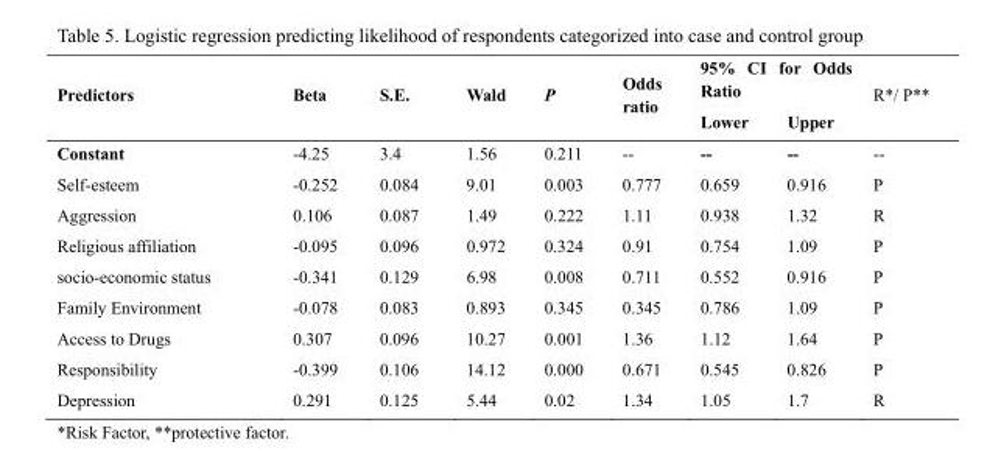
<table><thead><tr><td rowspan="2">Predictors</td><td rowspan="2">Beta</td><td rowspan="2">S.E.</td><td rowspan="2">Wald</td><td rowspan="2">P</td><td rowspan="2">Odds ratio</td><td colspan="2">95% CI for Odds Ratio</td><td rowspan="2">R*/ P**</td></tr><tr><td>Lower</td><td>Upper</td></tr></thead><tbody><tr><td>Constant</td><td>-4.25</td><td>3.4</td><td>1.56</td><td>0.211</td><td>--</td><td>--</td><td>--</td><td>--</td></tr><tr><td>Self-esteem</td><td>-0.252</td><td>0.084</td><td>9.01</td><td>0.003</td><td>0.777</td><td>0.659</td><td>0.916</td><td>P</td></tr><tr><td>Aggression</td><td>0.106</td><td>0.087</td><td>1.49</td><td>0.222</td><td>1.11</td><td>0.938</td><td>1.32</td><td>R</td></tr><tr><td>Religious affiliation</td><td>-0.095</td><td>0.096</td><td>0.972</td><td>0.324</td><td>0.91</td><td>0.754</td><td>1.09</td><td>P</td></tr><tr><td>socio-economic status</td><td>-0.341</td><td>0.129</td><td>6.98</td><td>0.008</td><td>0.711</td><td>0.552</td><td>0.916</td><td>P</td></tr><tr><td>Family Environment</td><td>-0.078</td><td>0.083</td><td>0.893</td><td>0.345</td><td>0.345</td><td>0.786</td><td>1.09</td><td>P</td></tr><tr><td>Access to Drugs</td><td>0.307</td><td>0.096</td><td>10.27</td><td>0.001</td><td>1.36</td><td>1.12</td><td>1.64</td><td>P</td></tr><tr><td>Responsibility</td><td>-0.399</td><td>0.106</td><td>14.12</td><td>0.000</td><td>0.671</td><td>0.545</td><td>0.826</td><td>P</td></tr><tr><td>Depression</td><td>0.291</td><td>0.125</td><td>5.44</td><td>0.02</td><td>1.34</td><td>1.05</td><td>1.7</td><td>R</td></tr></tbody></table>